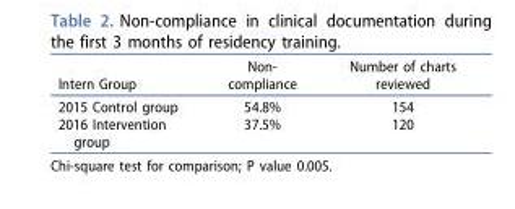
<table><thead><tr><td>Intern Group</td><td>Non- compliance</td><td>Number of charts reviewed</td></tr></thead><tbody><tr><td>2015 Control group</td><td>54.8%</td><td>154</td></tr><tr><td>2016 Intervention group</td><td>37.5%</td><td>120</td></tr></tbody></table>